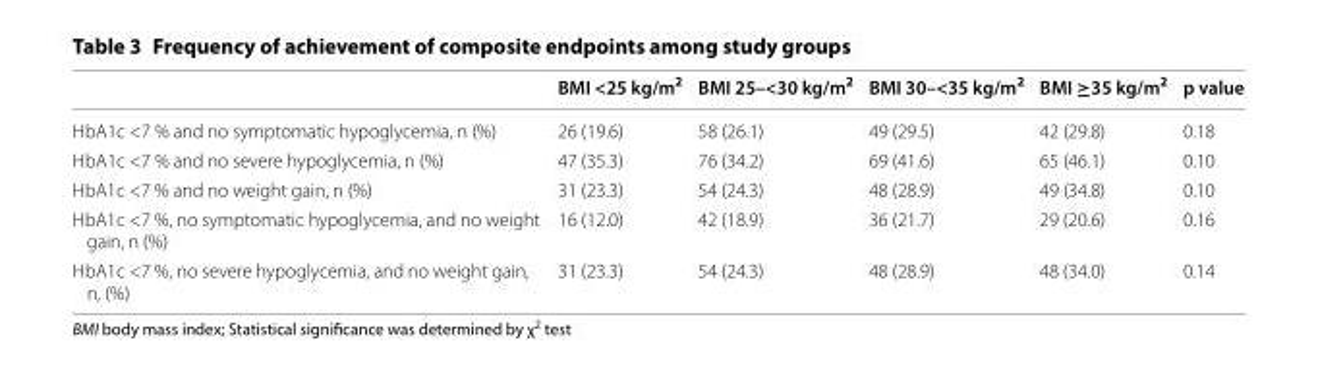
<table><thead><tr><td></td><td>BMI &lt;25 kg/m<sup>2</sup></td><td>BMI 25–&lt;30 kg/m<sup>2</sup></td><td>BMI 30–&lt;35 kg/m<sup>2</sup></td><td>BMI ≥35 kg/m<sup>2</sup></td><td>p value</td></tr></thead><tbody><tr><td>HbA1c &lt;7 % and no symptomatic hypoglycemia, n (%)</td><td>26 (19.6)</td><td>58 (26.1)</td><td>49 (29.5)</td><td>42 (29.8)</td><td>0.18</td></tr><tr><td>HbA1c &lt;7 % and no severe hypoglycemia, n (%)</td><td>47 (35.3)</td><td>76 (34.2)</td><td>69 (41.6)</td><td>65 (46.1)</td><td>0.10</td></tr><tr><td>HbA1c &lt;7 % and no weight gain, n (%)</td><td>31 (23.3)</td><td>54 (24.3)</td><td>48 (28.9)</td><td>49 (34.8)</td><td>0.10</td></tr><tr><td>HbA1c &lt;7 %, no symptomatic hypoglycemia, and no weight gain, n (%)</td><td>16 (12.0)</td><td>42 (18.9)</td><td>36 (21.7)</td><td>29 (20.6)</td><td>0.16</td></tr><tr><td>HbA1c &lt;7 %, no severe hypoglycemia, and no weight gain, n, (%)</td><td>31 (23.3)</td><td>54 (24.3)</td><td>48 (28.9)</td><td>48 (34.0)</td><td>0.14</td></tr></tbody></table>